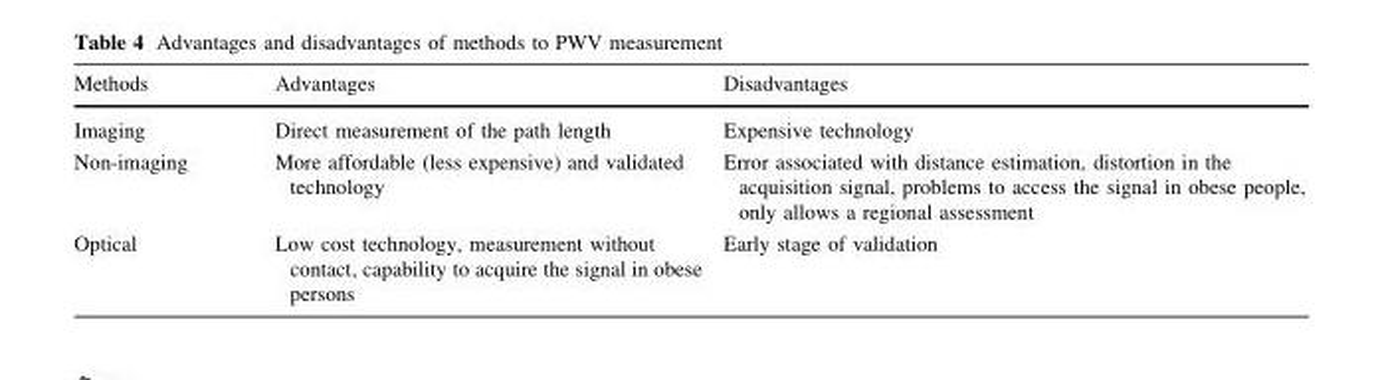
<table><thead><tr><td>Methods</td><td>Advantages</td><td>Disadvantages</td></tr></thead><tbody><tr><td>Imaging</td><td>Direct measurement of the path length</td><td>Expensive technology</td></tr><tr><td>Non-imaging</td><td>More affordable (less expensive) and validated technology</td><td>Error associated with distance estimation, distortion in the acquisition signal, problems to access the signal in obese people, only allows a regional assessment</td></tr><tr><td>Optical</td><td>Low cost technology, measurement without contact, capability to acquire the signal in obese persons</td><td>Early stage of validation</td></tr></tbody></table>